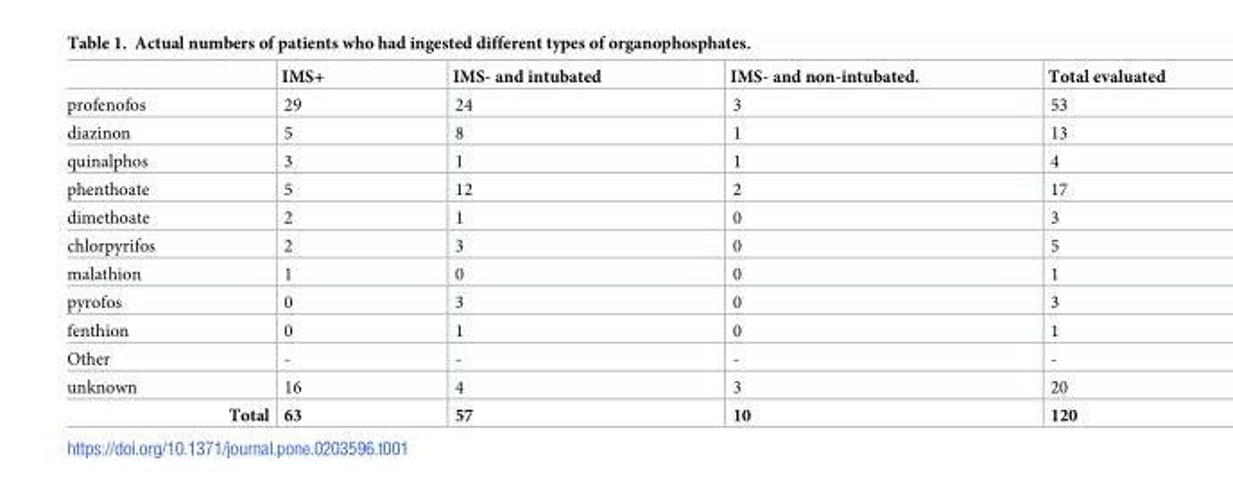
<table><thead><tr><td></td><td>IMS+</td><td>IMS- and intubated</td><td>IMS- and non-intubated.</td><td>Total evaluated</td></tr></thead><tbody><tr><td>profenofos</td><td>29</td><td>24</td><td>3</td><td>53</td></tr><tr><td>diazinon</td><td>5</td><td>8</td><td>1</td><td>13</td></tr><tr><td>quinalphos</td><td>3</td><td>1</td><td>1</td><td>4</td></tr><tr><td>phenthoate</td><td>5</td><td>12</td><td>2</td><td>17</td></tr><tr><td>dimethoate</td><td>2</td><td>1</td><td>0</td><td>3</td></tr><tr><td>chlorpyrifos</td><td>2</td><td>3</td><td>0</td><td>5</td></tr><tr><td>malathion</td><td>1</td><td>0</td><td>0</td><td>1</td></tr><tr><td>pyrofos</td><td>0</td><td>3</td><td>0</td><td>3</td></tr><tr><td>fenthion</td><td>0</td><td>1</td><td>0</td><td>1</td></tr><tr><td>Other</td><td>-</td><td>-</td><td>-</td><td>-</td></tr><tr><td>unknown</td><td>16</td><td>4</td><td>3</td><td>20</td></tr><tr><td>Total</td><td>63</td><td>57</td><td>10</td><td>120</td></tr></tbody></table>